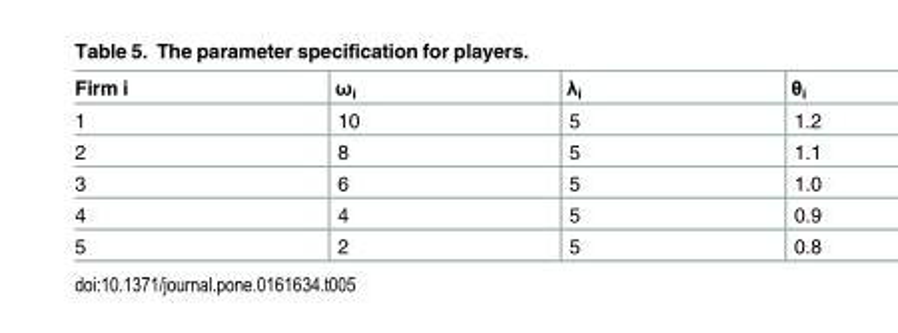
<table><thead><tr><td>Firm i</td><td>ω<sub>i</sub></td><td>λ<sub>i</sub></td><td>θ<sub>i</sub></td></tr></thead><tbody><tr><td>1</td><td>10</td><td>5</td><td>1.2</td></tr><tr><td>2</td><td>8</td><td>5</td><td>1.1</td></tr><tr><td>3</td><td>6</td><td>5</td><td>1.0</td></tr><tr><td>4</td><td>4</td><td>5</td><td>0.9</td></tr><tr><td>5</td><td>2</td><td>5</td><td>0.8</td></tr></tbody></table>